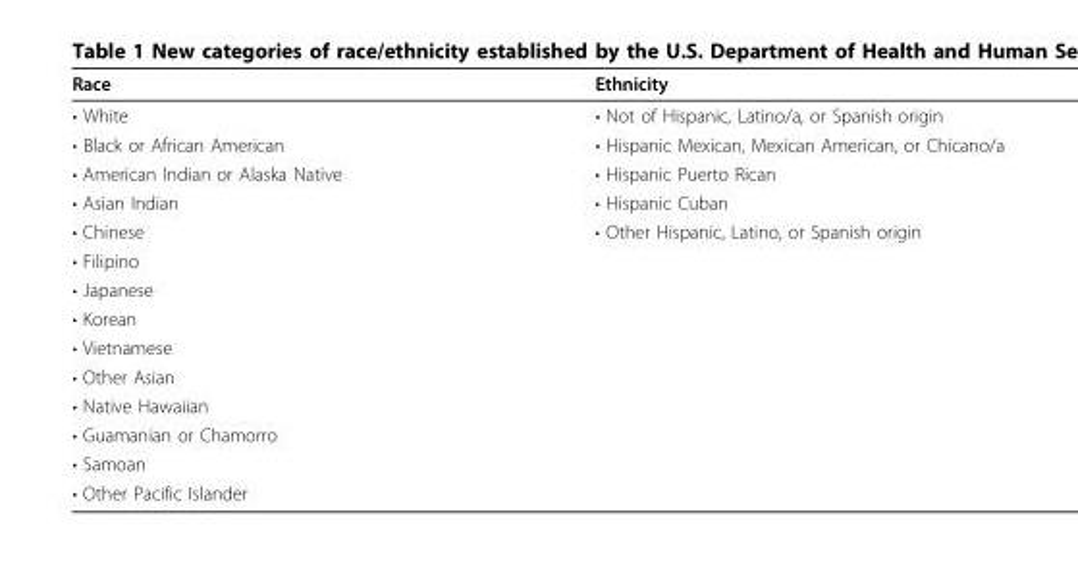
<table><thead><tr><td>Race</td><td>Ethnicity</td></tr></thead><tbody><tr><td>• White</td><td>• Not of Hispanic, Latino/a, or Spanish origin</td></tr><tr><td>• Black or African American</td><td>• Hispanic Mexican, Mexican American, or Chicano/a</td></tr><tr><td>• American Indian or Alaska Native</td><td>• Hispanic Puerto Rican</td></tr><tr><td>• Asian Indian</td><td>• Hispanic Cuban</td></tr><tr><td>• Chinese</td><td>• Other Hispanic, Latino, or Spanish origin</td></tr><tr><td colspan="2">• Filipino</td></tr><tr><td colspan="2">• Japanese</td></tr><tr><td colspan="2">• Korean</td></tr><tr><td colspan="2">• Vietnamese</td></tr><tr><td colspan="2">• Other Asian</td></tr><tr><td colspan="2">• Native Hawaiian</td></tr><tr><td colspan="2">• Guamanian or Chamorro</td></tr><tr><td colspan="2">• Samoan</td></tr><tr><td>• Other Pacific Islander</td><td></td></tr></tbody></table>